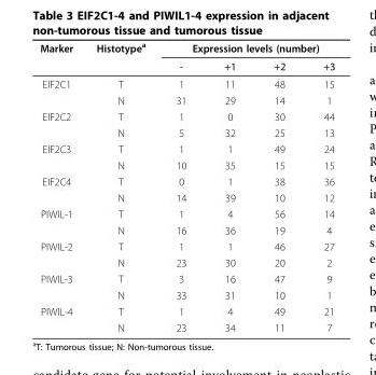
<table><thead><tr><td rowspan="2">Marker</td><td rowspan="2">Histotype<sup>a</sup></td><td colspan="4">Expression levels (number)</td></tr><tr><td>-</td><td>+1</td><td>+2</td><td>+3</td></tr></thead><tbody><tr><td rowspan="2">EIF2C1</td><td>T</td><td>1</td><td>11</td><td>48</td><td>15</td></tr><tr><td>N</td><td>31</td><td>29</td><td>14</td><td>1</td></tr><tr><td rowspan="2">EIF2C2</td><td>T</td><td>1</td><td>0</td><td>30</td><td>44</td></tr><tr><td>N</td><td>5</td><td>32</td><td>25</td><td>13</td></tr><tr><td rowspan="2">EIF2C3</td><td>T</td><td>1</td><td>1</td><td>49</td><td>24</td></tr><tr><td>N</td><td>10</td><td>35</td><td>15</td><td>15</td></tr><tr><td rowspan="2">EIF2C4</td><td>T</td><td>0</td><td>1</td><td>38</td><td>36</td></tr><tr><td>N</td><td>14</td><td>39</td><td>10</td><td>12</td></tr><tr><td rowspan="2">PIWIL-1</td><td>T</td><td>1</td><td>4</td><td>56</td><td>14</td></tr><tr><td>N</td><td>16</td><td>36</td><td>19</td><td>4</td></tr><tr><td rowspan="2">PIWIL-2</td><td>T</td><td>1</td><td>1</td><td>46</td><td>27</td></tr><tr><td>N</td><td>23</td><td>30</td><td>20</td><td>2</td></tr><tr><td rowspan="2">PIWIL-3</td><td>T</td><td>3</td><td>16</td><td>47</td><td>9</td></tr><tr><td>N</td><td>33</td><td>31</td><td>10</td><td>1</td></tr><tr><td rowspan="2">PIWIL-4</td><td>T</td><td>1</td><td>4</td><td>49</td><td>21</td></tr><tr><td>N</td><td>23</td><td>34</td><td>11</td><td>7</td></tr></tbody></table>